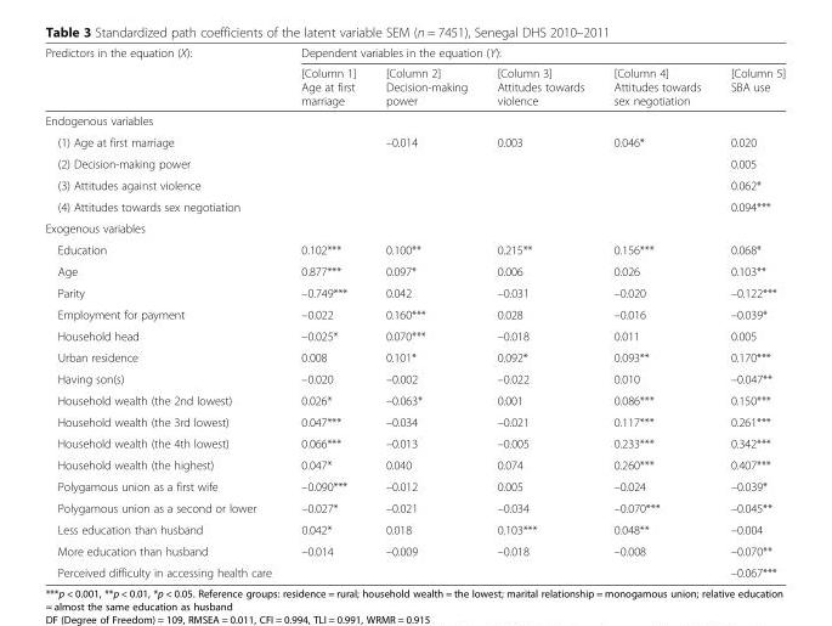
<table><thead><tr><td rowspan="2">Predictors in the equation (X):</td><td colspan="5">Dependent variables in the equation (Y):</td></tr><tr><td>[Column 1] Age at first marriage</td><td>[Column 2] Decision-making power</td><td>[Column 3] Attitudes towards violence</td><td>[Column 4] Attitudes towards sex negotiation</td><td>[Column 5] SBA use</td></tr></thead><tbody><tr><td colspan="6">Endogenous variables</td></tr><tr><td>(1) Age at first marriage</td><td></td><td>–0.014</td><td>0.003</td><td>0.046*</td><td>0.020</td></tr><tr><td>(2) Decision-making power</td><td></td><td></td><td></td><td></td><td>0.005</td></tr><tr><td>(3) Attitudes against violence</td><td></td><td></td><td></td><td></td><td>0.062*</td></tr><tr><td>(4) Attitudes towards sex negotiation</td><td></td><td></td><td></td><td></td><td>0.094***</td></tr><tr><td colspan="6">Exogenous variables</td></tr><tr><td>Education</td><td>0.102***</td><td>0.100**</td><td>0.215**</td><td>0.156***</td><td>0.068*</td></tr><tr><td>Age</td><td>0.877***</td><td>0.097*</td><td>0.006</td><td>0.026</td><td>0.103**</td></tr><tr><td>Parity</td><td>–0.749***</td><td>0.042</td><td>–0.031</td><td>–0.020</td><td>–0.122***</td></tr><tr><td>Employment for payment</td><td>–0.022</td><td>0.160***</td><td>0.028</td><td>–0.016</td><td>–0.039*</td></tr><tr><td>Household head</td><td>–0.025*</td><td>0.070***</td><td>–0.018</td><td>0.011</td><td>0.005</td></tr><tr><td>Urban residence</td><td>0.008</td><td>0.101*</td><td>0.092*</td><td>0.093**</td><td>0.170***</td></tr><tr><td>Having son(s)</td><td>–0.020</td><td>–0.002</td><td>–0.022</td><td>0.010</td><td>–0.047**</td></tr><tr><td>Household wealth (the 2nd lowest)</td><td>0.026*</td><td>–0.063*</td><td>0.001</td><td>0.086***</td><td>0.150***</td></tr><tr><td>Household wealth (the 3rd lowest)</td><td>0.047***</td><td>–0.034</td><td>–0.021</td><td>0.117***</td><td>0.261***</td></tr><tr><td>Household wealth (the 4th lowest)</td><td>0.066***</td><td>–0.013</td><td>–0.005</td><td>0.233***</td><td>0.342***</td></tr><tr><td>Household wealth (the highest)</td><td>0.047*</td><td>0.040</td><td>0.074</td><td>0.260***</td><td>0.407***</td></tr><tr><td>Polygamous union as a first wife</td><td>–0.090***</td><td>–0.012</td><td>0.005</td><td>–0.024</td><td>–0.039*</td></tr><tr><td>Polygamous union as a second or lower</td><td>–0.027*</td><td>–0.021</td><td>–0.034</td><td>–0.070***</td><td>–0.045**</td></tr><tr><td>Less education than husband</td><td>0.042*</td><td>0.018</td><td>0.103***</td><td>0.048**</td><td>–0.004</td></tr><tr><td>More education than husband</td><td>–0.014</td><td>–0.009</td><td>–0.018</td><td>–0.008</td><td>–0.070**</td></tr><tr><td>Perceived difficulty in accessing health care</td><td></td><td></td><td></td><td></td><td>–0.067***</td></tr></tbody></table>